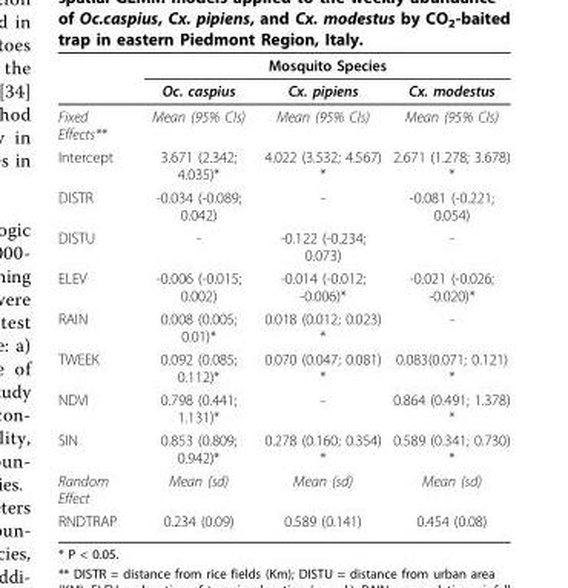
<table><thead><tr><td rowspan="2"></td><td colspan="3">Mosquito Species</td></tr><tr><td>Oc. caspius</td><td>Cx. pipiens</td><td>Cx. modestus</td></tr></thead><tbody><tr><td>Fixed Effects**</td><td>Mean (95% CIs)</td><td>Mean (95% CIs)</td><td>Mean (95% CIs)</td></tr><tr><td>Intercept</td><td>3.671 (2.342; 4.035)*</td><td>4.022 (3.532; 4.567) *</td><td>2.671 (1.278; 3.678) *</td></tr><tr><td>DISTR</td><td>-0.034 (-0.089; 0.042)</td><td>-</td><td>-0.081 (-0.221; 0.054)</td></tr><tr><td>DISTU</td><td>-</td><td>-0.122 (-0.234; 0.073)</td><td>-</td></tr><tr><td>ELEV</td><td>-0.006 (-0.015; 0.002)</td><td>-0.014 (-0.012; -0.006)*</td><td>-0.021 (-0.026; -0.020)*</td></tr><tr><td>RAIN</td><td>0.008 (0.005; 0.01)*</td><td>0.018 (0.012; 0.023) *</td><td>-</td></tr><tr><td>TWEEK</td><td>0.092 (0.085; 0.112)*</td><td>0.070 (0.047; 0.081) *</td><td>0.083(0.071; 0.121) *</td></tr><tr><td>NDVI</td><td>0.798 (0.441; 1.131)*</td><td>-</td><td>0.864 (0.491; 1.378) *</td></tr><tr><td>SIN</td><td>0.853 (0.809; 0.942)*</td><td>0.278 (0.160; 0.354) *</td><td>0.589 (0.341; 0.730) *</td></tr><tr><td>Random Effect</td><td>Mean (sd)</td><td>Mean (sd)</td><td>Mean (sd)</td></tr><tr><td>RNDTRAP</td><td>0.234 (0.09)</td><td>0.589 (0.141)</td><td>0.454 (0.08)</td></tr></tbody></table>